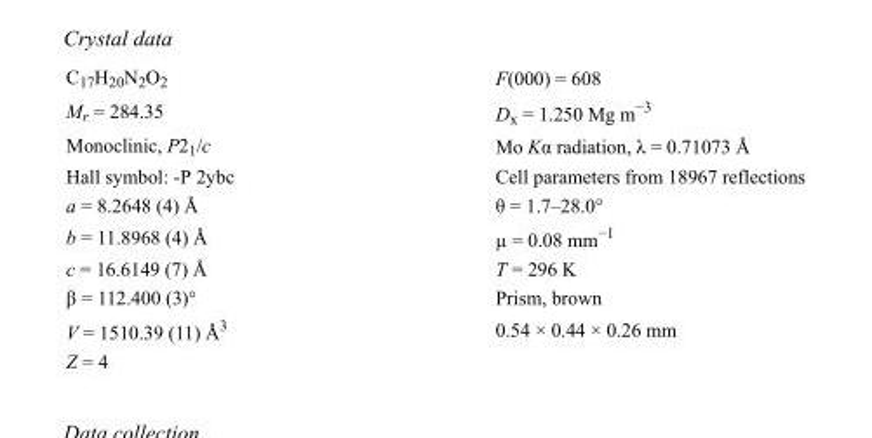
<table><tbody><tr><td>C<sub>17</sub>H<sub>20</sub>N<sub>2</sub>O<sub>2</sub></td><td>F(000) = 608</td></tr><tr><td>M<sub>r</sub> = 284.35</td><td>D<sub>x</sub> = 1.250 Mg m<sup>−3</sup></td></tr><tr><td>Monoclinic, P2<sub>1</sub>/c</td><td>Mo Kα radiation, λ = 0.71073 Å</td></tr><tr><td>Hall symbol: -P 2ybc</td><td>Cell parameters from 18967 reflections</td></tr><tr><td>a = 8.2648 (4) Å</td><td>θ = 1.7–28.0°</td></tr><tr><td>b = 11.8968 (4) Å</td><td>µ = 0.08 mm<sup>−1</sup></td></tr><tr><td>c = 16.6149 (7) Å</td><td>T = 296 K</td></tr><tr><td>β = 112.400 (3)°</td><td>Prism, brown</td></tr><tr><td>V = 1510.39 (11) Å<sup>3</sup></td><td>0.54 × 0.44 × 0.26 mm</td></tr><tr><td>Z = 4</td><td></td></tr></tbody></table>